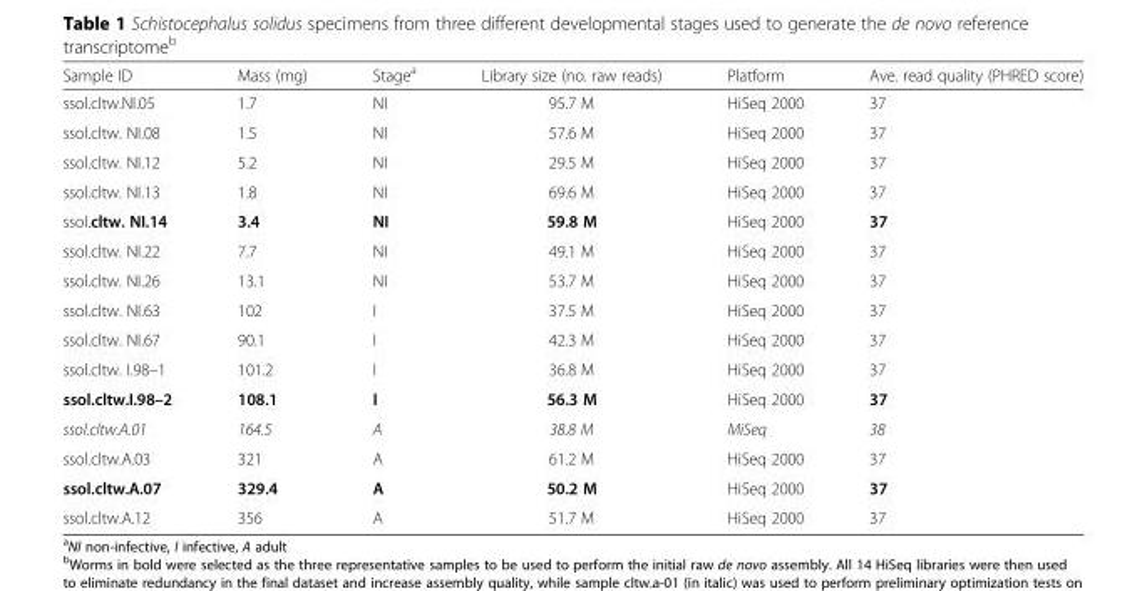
<table><thead><tr><td>Sample ID</td><td>Mass (mg)</td><td>Stage<sup>a</sup></td><td>Library size (no. raw reads)</td><td>Platform</td><td>Ave. read quality (PHRED score)</td></tr></thead><tbody><tr><td>ssol.cltw.NI.05</td><td>1.7</td><td>NI</td><td>95.7 M</td><td>HiSeq 2000</td><td>37</td></tr><tr><td>ssol.cltw. NI.08</td><td>1.5</td><td>NI</td><td>57.6 M</td><td>HiSeq 2000</td><td>37</td></tr><tr><td>ssol.cltw. NI.12</td><td>5.2</td><td>NI</td><td>29.5 M</td><td>HiSeq 2000</td><td>37</td></tr><tr><td>ssol.cltw. NI.13</td><td>1.8</td><td>NI</td><td>69.6 M</td><td>HiSeq 2000</td><td>37</td></tr><tr><td>ssol.cltw. NI.14</td><td>3.4</td><td>NI</td><td>59.8 M</td><td>HiSeq 2000</td><td>37</td></tr><tr><td>ssol.cltw. NI.22</td><td>7.7</td><td>NI</td><td>49.1 M</td><td>HiSeq 2000</td><td>37</td></tr><tr><td>ssol.cltw. NI.26</td><td>13.1</td><td>NI</td><td>53.7 M</td><td>HiSeq 2000</td><td>37</td></tr><tr><td>ssol.cltw. NI.63</td><td>102</td><td>I</td><td>37.5 M</td><td>HiSeq 2000</td><td>37</td></tr><tr><td>ssol.cltw. NI.67</td><td>90.1</td><td>I</td><td>42.3 M</td><td>HiSeq 2000</td><td>37</td></tr><tr><td>ssol.cltw. I.98–1</td><td>101.2</td><td>I</td><td>36.8 M</td><td>HiSeq 2000</td><td>37</td></tr><tr><td>ssol.cltw.I.98–2</td><td>108.1</td><td>I</td><td>56.3 M</td><td>HiSeq 2000</td><td>37</td></tr><tr><td>ssol.cltw.A.01</td><td>164.5</td><td>A</td><td>38.8 M</td><td>MiSeq</td><td>38</td></tr><tr><td>ssol.cltw.A.03</td><td>321</td><td>A</td><td>61.2 M</td><td>HiSeq 2000</td><td>37</td></tr><tr><td>ssol.cltw.A.07</td><td>329.4</td><td>A</td><td>50.2 M</td><td>HiSeq 2000</td><td>37</td></tr><tr><td>ssol.cltw.A.12</td><td>356</td><td>A</td><td>51.7 M</td><td>HiSeq 2000</td><td>37</td></tr></tbody></table>